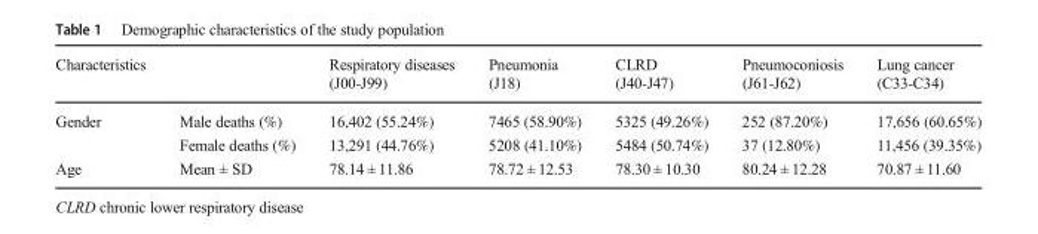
<table><thead><tr><td>Characteristics</td><td></td><td>Respiratory diseases (J00-J99)</td><td>Pneumonia (J18)</td><td>CLRD (J40-J47)</td><td>Pneumoconiosis (J61-J62)</td><td>Lung cancer (C33-C34)</td></tr></thead><tbody><tr><td rowspan="2">Gender</td><td>Male deaths (%)</td><td>16,402 (55.24%)</td><td>7465 (58.90%)</td><td>5325 (49.26%)</td><td>252 (87.20%)</td><td>17,656 (60.65%)</td></tr><tr><td>Female deaths (%)</td><td>13,291 (44.76%)</td><td>5208 (41.10%)</td><td>5484 (50.74%)</td><td>37 (12.80%)</td><td>11,456 (39.35%)</td></tr><tr><td>Age</td><td>Mean ± SD</td><td>78.14 ± 11.86</td><td>78.72 ± 12.53</td><td>78.30 ± 10.30</td><td>80.24 ± 12.28</td><td>70.87 ± 11.60</td></tr></tbody></table>